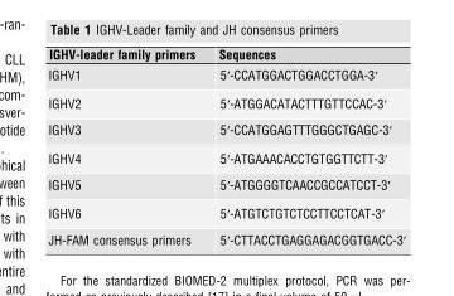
<table><thead><tr><td>IGHV-leader family primers</td><td>Sequences</td></tr></thead><tbody><tr><td>IGHV1</td><td>5′-CCATGGACTGGACCTGGA-3′</td></tr><tr><td>IGHV2</td><td>5′-ATGGACATACTTTGTTCCAC-3′</td></tr><tr><td>IGHV3</td><td>5′-CCATGGAGTTTGGGCTGAGC-3′</td></tr><tr><td>IGHV4</td><td>5′-ATGAAACACCTGTGGTTCTT-3′</td></tr><tr><td>IGHV5</td><td>5′-ATGGGGTCAACCGCCATCCT-3′</td></tr><tr><td>IGHV6</td><td>5′-ATGTCTGTCTCCTTCCTCAT-3′</td></tr><tr><td>JH-FAM consensus primers</td><td>5′-CTTACCTGAGGAGACGGTGACC-3′</td></tr></tbody></table>